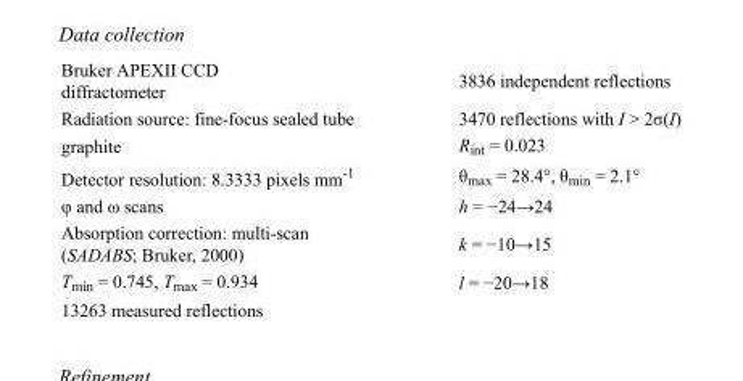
<table><tbody><tr><td>Bruker APEXII CCD diffractometer</td><td>3836 independent reflections</td></tr><tr><td>Radiation source: fine-focus sealed tube</td><td>3470 reflections with I &gt; 2σ(I)</td></tr><tr><td>graphite</td><td>R<sub>int</sub> = 0.023</td></tr><tr><td>Detector resolution: 8.3333 pixels mm<sup>-1</sup></td><td>θ<sub>max</sub> = 28.4°, θ<sub>min</sub> = 2.1°</td></tr><tr><td>φ and ω scans</td><td>h = −24→24</td></tr><tr><td>Absorption correction: multi-scan (SADABS; Bruker, 2000)</td><td>k = −10→15</td></tr><tr><td>T<sub>min</sub> = 0.745, T<sub>max</sub> = 0.934</td><td>l = −20→18</td></tr><tr><td>13263 measured reflections</td><td></td></tr></tbody></table>